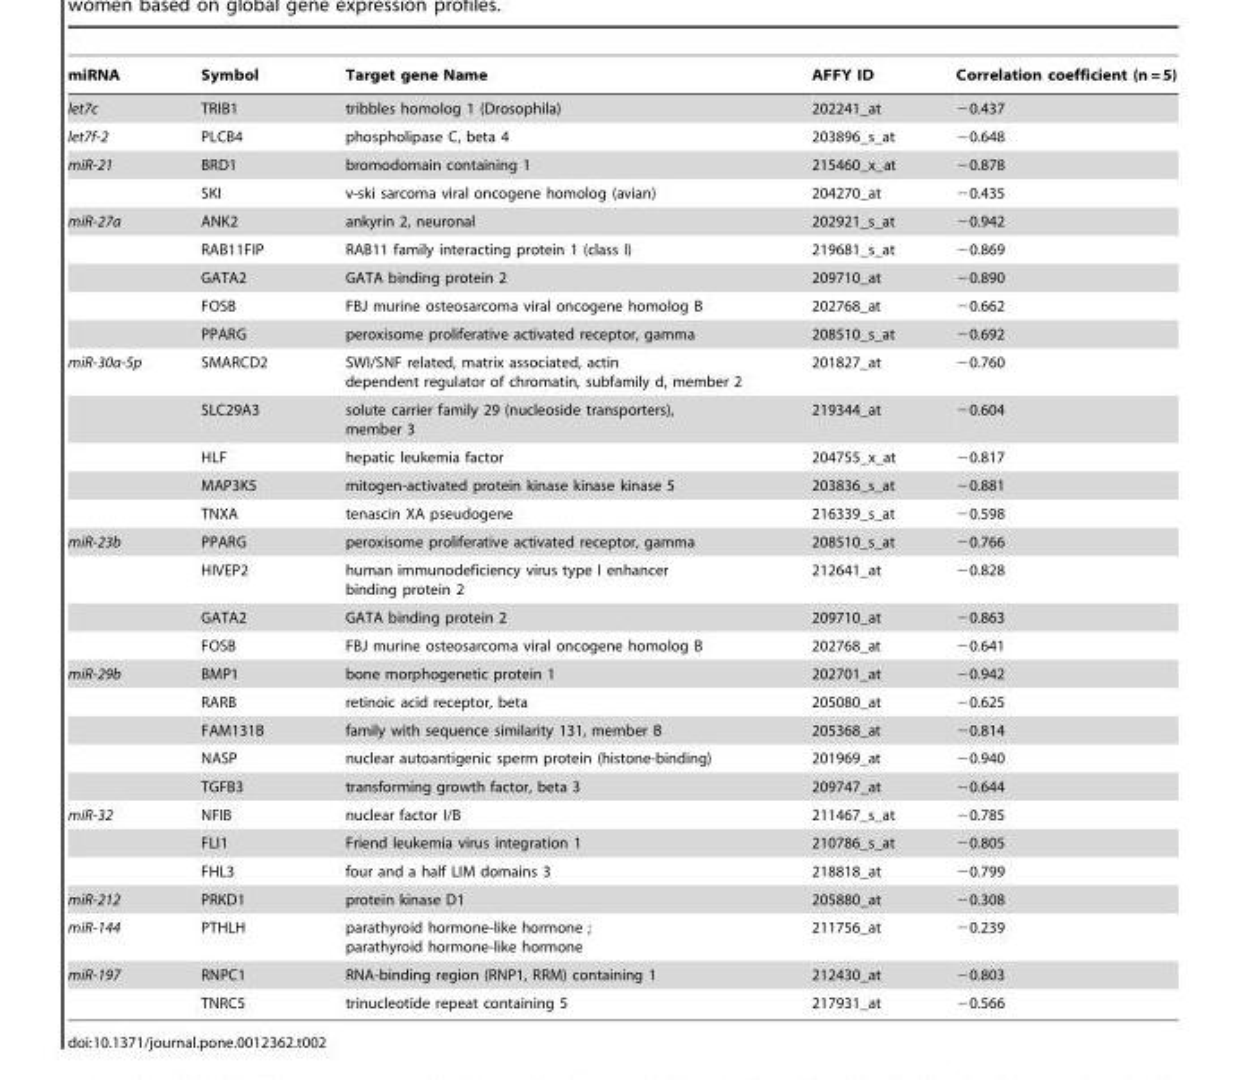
<table><thead><tr><td>miRNA</td><td>Symbol</td><td>Target gene Name</td><td>AFFY ID</td><td>Correlation coefficient (n = 5)</td></tr></thead><tbody><tr><td>let7c</td><td>TRIB1</td><td>tribbles homolog 1 (Drosophila)</td><td>202241_at</td><td>−0.437</td></tr><tr><td>let7f-2</td><td>PLCB4</td><td>phospholipase C, beta 4</td><td>203896_s_at</td><td>−0.648</td></tr><tr><td rowspan="2">miR-21</td><td>BRD1</td><td>bromodomain containing 1</td><td>215460_x_at</td><td>−0.878</td></tr><tr><td>SKI</td><td>v-ski sarcoma viral oncogene homolog (avian)</td><td>204270_at</td><td>−0.435</td></tr><tr><td rowspan="5">miR-27a</td><td>ANK2</td><td>ankyrin 2, neuronal</td><td>202921_s_at</td><td>−0.942</td></tr><tr><td>RAB11FIP</td><td>RAB11 family interacting protein 1 (class I)</td><td>219681_s_at</td><td>−0.869</td></tr><tr><td>GATA2</td><td>GATA binding protein 2</td><td>209710_at</td><td>−0.890</td></tr><tr><td>FOSB</td><td>FBJ murine osteosarcoma viral oncogene homolog B</td><td>202768_at</td><td>−0.662</td></tr><tr><td>PPARG</td><td>peroxisome proliferative activated receptor, gamma</td><td>208510_s_at</td><td>−0.692</td></tr><tr><td rowspan="5">miR-30a-5p</td><td>SMARCD2</td><td>SWI/SNF related, matrix associated, actin dependent regulator of chromatin, subfamily d, member 2</td><td>201827_at</td><td>−0.760</td></tr><tr><td>SLC29A3</td><td>solute carrier family 29 (nucleoside transporters), member 3</td><td>219344_at</td><td>−0.604</td></tr><tr><td>HLF</td><td>hepatic leukemia factor</td><td>204755_x_at</td><td>−0.817</td></tr><tr><td>MAP3K5</td><td>mitogen-activated protein kinase kinase kinase 5</td><td>203836_s_at</td><td>−0.881</td></tr><tr><td>TNXA</td><td>tenascin XA pseudogene</td><td>216339_s_at</td><td>−0.598</td></tr><tr><td rowspan="4">miR-23b</td><td>PPARG</td><td>peroxisome proliferative activated receptor, gamma</td><td>208510_s_at</td><td>−0.766</td></tr><tr><td>HIVEP2</td><td>human immunodeficiency virus type I enhancer binding protein 2</td><td>212641_at</td><td>−0.828</td></tr><tr><td>GATA2</td><td>GATA binding protein 2</td><td>209710_at</td><td>−0.863</td></tr><tr><td>FOSB</td><td>FBJ murine osteosarcoma viral oncogene homolog B</td><td>202768_at</td><td>−0.641</td></tr><tr><td rowspan="5">miR-29b</td><td>BMP1</td><td>bone morphogenetic protein 1</td><td>202701_at</td><td>−0.942</td></tr><tr><td>RARB</td><td>retinoic acid receptor, beta</td><td>205080_at</td><td>−0.625</td></tr><tr><td>FAM131B</td><td>family with sequence similarity 131, member B</td><td>205368_at</td><td>−0.814</td></tr><tr><td>NASP</td><td>nuclear autoantigenic sperm protein (histone-binding)</td><td>201969_at</td><td>−0.940</td></tr><tr><td>TGFB3</td><td>transforming growth factor, beta 3</td><td>209747_at</td><td>−0.644</td></tr><tr><td rowspan="3">miR-32</td><td>NFIB</td><td>nuclear factor I/B</td><td>211467_s_at</td><td>−0.785</td></tr><tr><td>FLI1</td><td>Friend leukemia virus integration 1</td><td>210786_s_at</td><td>−0.805</td></tr><tr><td>FHL3</td><td>four and a half LIM domains 3</td><td>218818_at</td><td>−0.799</td></tr><tr><td>miR-212</td><td>PRKD1</td><td>protein kinase D1</td><td>205880_at</td><td>−0.308</td></tr><tr><td>miR-144</td><td>PTHLH</td><td>parathyroid hormone-like hormone ; parathyroid hormone-like hormone</td><td>211756_at</td><td>−0.239</td></tr><tr><td rowspan="2">miR-197</td><td>RNPC1</td><td>RNA-binding region (RNP1, RRM) containing 1</td><td>212430_at</td><td>−0.803</td></tr><tr><td>TNRC5</td><td>trinucleotide repeat containing 5</td><td>217931_at</td><td>−0.566</td></tr></tbody></table>